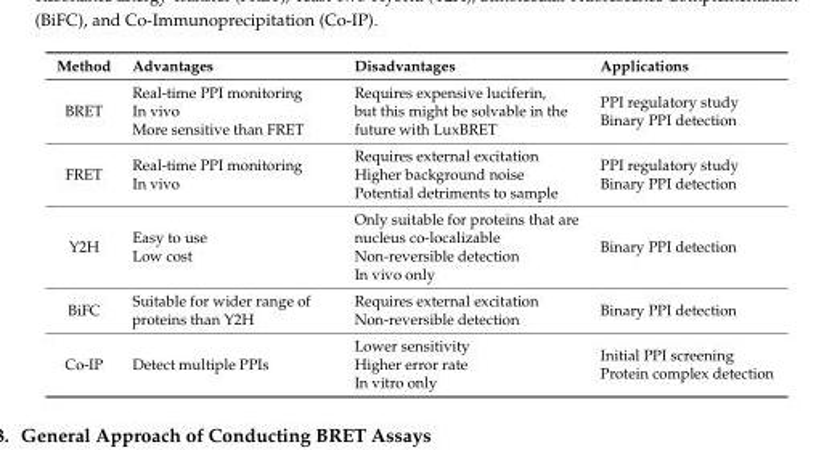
<table><thead><tr><td>Method</td><td>Advantages</td><td>Disadvantages</td><td>Applications</td></tr></thead><tbody><tr><td>BRET</td><td>Real-time PPI monitoring In vivo More sensitive than FRET</td><td>Requires expensive luciferin, but this might be solvable in the future with LuxBRET</td><td>PPI regulatory study Binary PPI detection</td></tr><tr><td>FRET</td><td>Real-time PPI monitoring In vivo</td><td>Requires external excitation Higher background noise Potential detriments to sample</td><td>PPI regulatory study Binary PPI detection</td></tr><tr><td>Y2H</td><td>Easy to use Low cost</td><td>Only suitable for proteins that are nucleus co-localizable Non-reversible detection In vivo only</td><td>Binary PPI detection</td></tr><tr><td>BiFC</td><td>Suitable for wider range of proteins than Y2H</td><td>Requires external excitation Non-reversible detection</td><td>Binary PPI detection</td></tr><tr><td>Co-IP</td><td>Detect multiple PPIs</td><td>Lower sensitivity Higher error rate In vitro only</td><td>Initial PPI screening Protein complex detection</td></tr></tbody></table>